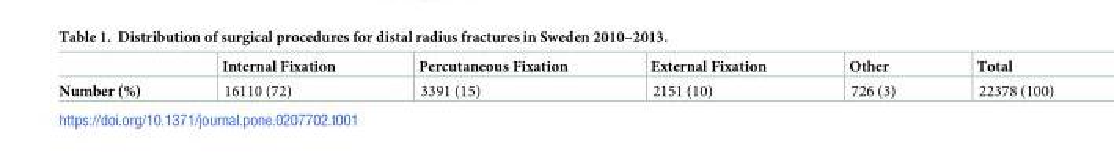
<table><thead><tr><td></td><td>Internal Fixation</td><td>Percutaneous Fixation</td><td>External Fixation</td><td>Other</td><td>Total</td></tr></thead><tbody><tr><td>Number (%)</td><td>16110 (72)</td><td>3391 (15)</td><td>2151 (10)</td><td>726 (3)</td><td>22378 (100)</td></tr></tbody></table>